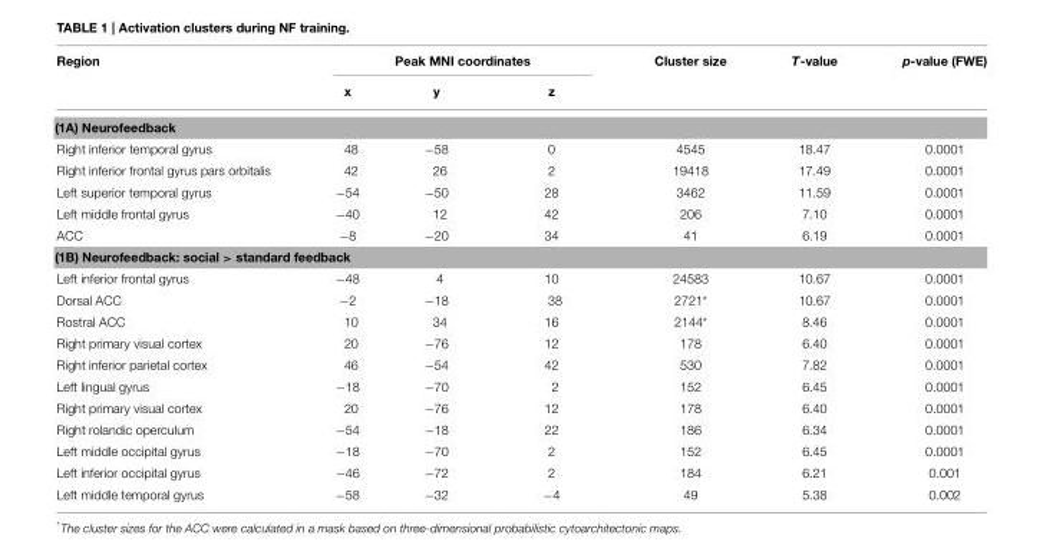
<table><thead><tr><td rowspan="2">Region</td><td colspan="3">Peak MNI coordinates</td><td rowspan="2">Cluster size</td><td rowspan="2">T-value</td><td rowspan="2">p-value (FWE)</td></tr><tr><td>x</td><td>y</td><td>z</td></tr></thead><tbody><tr><td colspan="7">(1A) Neurofeedback</td></tr><tr><td>Right inferior temporal gyrus</td><td>48</td><td>−58</td><td>0</td><td>4545</td><td>18.47</td><td>0.0001</td></tr><tr><td>Right inferior frontal gyrus pars orbitalis</td><td>42</td><td>26</td><td>2</td><td>19418</td><td>17.49</td><td>0.0001</td></tr><tr><td>Left superior temporal gyrus</td><td>−54</td><td>−50</td><td>28</td><td>3462</td><td>11.59</td><td>0.0001</td></tr><tr><td>Left middle frontal gyrus</td><td>−40</td><td>12</td><td>42</td><td>206</td><td>7.10</td><td>0.0001</td></tr><tr><td>ACC</td><td>−8</td><td>−20</td><td>34</td><td>41</td><td>6.19</td><td>0.0001</td></tr><tr><td colspan="7">(1B) Neurofeedback: social &gt; standard feedback</td></tr><tr><td>Left inferior frontal gyrus</td><td>−48</td><td>4</td><td>10</td><td>24583</td><td>10.67</td><td>0.0001</td></tr><tr><td>Dorsal ACC</td><td>−2</td><td>−18</td><td>38</td><td>2721*</td><td>10.67</td><td>0.0001</td></tr><tr><td>Rostral ACC</td><td>10</td><td>34</td><td>16</td><td>2144*</td><td>8.46</td><td>0.0001</td></tr><tr><td>Right primary visual cortex</td><td>20</td><td>−76</td><td>12</td><td>178</td><td>6.40</td><td>0.0001</td></tr><tr><td>Right inferior parietal cortex</td><td>46</td><td>−54</td><td>42</td><td>530</td><td>7.82</td><td>0.0001</td></tr><tr><td>Left lingual gyrus</td><td>−18</td><td>−70</td><td>2</td><td>152</td><td>6.45</td><td>0.0001</td></tr><tr><td>Right primary visual cortex</td><td>20</td><td>−76</td><td>12</td><td>178</td><td>6.40</td><td>0.0001</td></tr><tr><td>Right rolandic operculum</td><td>−54</td><td>−18</td><td>22</td><td>186</td><td>6.34</td><td>0.0001</td></tr><tr><td>Left middle occipital gyrus</td><td>−18</td><td>−70</td><td>2</td><td>152</td><td>6.45</td><td>0.0001</td></tr><tr><td>Left inferior occipital gyrus</td><td>−46</td><td>−72</td><td>2</td><td>184</td><td>6.21</td><td>0.001</td></tr><tr><td>Left middle temporal gyrus</td><td>−58</td><td>−32</td><td>−4</td><td>49</td><td>5.38</td><td>0.002</td></tr></tbody></table>